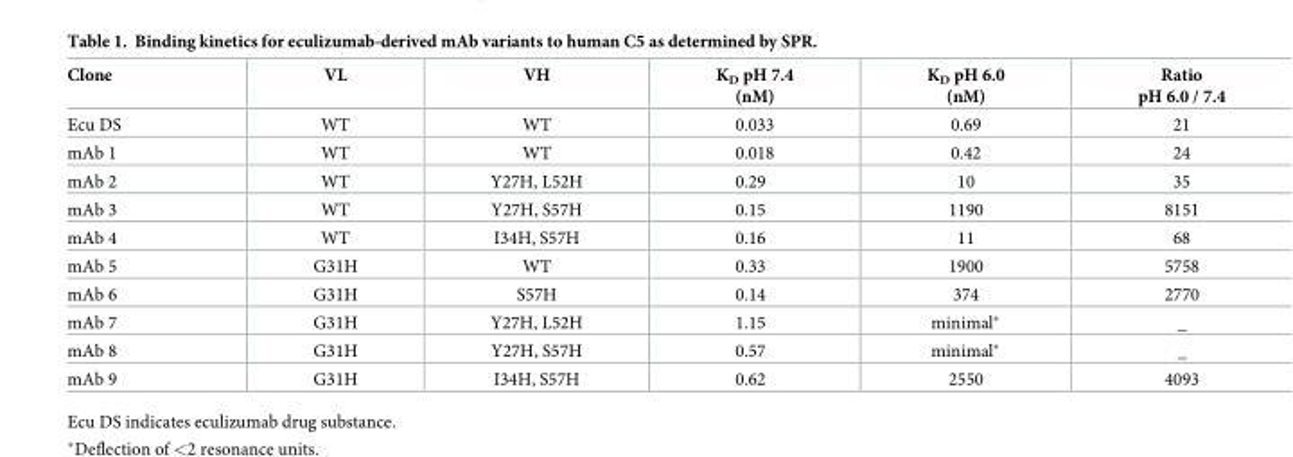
<table><thead><tr><td>Clone</td><td>VL</td><td>VH</td><td>K<sub>D</sub> pH 7.4 (nM)</td><td>K<sub>D</sub> pH 6.0 (nM)</td><td>Ratio pH 6.0 / 7.4</td></tr></thead><tbody><tr><td>Ecu DS</td><td>WT</td><td>WT</td><td>0.033</td><td>0.69</td><td>21</td></tr><tr><td>mAb 1</td><td>WT</td><td>WT</td><td>0.018</td><td>0.42</td><td>24</td></tr><tr><td>mAb 2</td><td>WT</td><td>Y27H, L52H</td><td>0.29</td><td>10</td><td>35</td></tr><tr><td>mAb 3</td><td>WT</td><td>Y27H, S57H</td><td>0.15</td><td>1190</td><td>8151</td></tr><tr><td>mAb 4</td><td>WT</td><td>I34H, S57H</td><td>0.16</td><td>11</td><td>68</td></tr><tr><td>mAb 5</td><td>G31H</td><td>WT</td><td>0.33</td><td>1900</td><td>5758</td></tr><tr><td>mAb 6</td><td>G31H</td><td>S57H</td><td>0.14</td><td>374</td><td>2770</td></tr><tr><td>mAb 7</td><td>G31H</td><td>Y27H, L52H</td><td>1.15</td><td>minimal*</td><td>_</td></tr><tr><td>mAb 8</td><td>G31H</td><td>Y27H, S57H</td><td>0.57</td><td>minimal*</td><td>_</td></tr><tr><td>mAb 9</td><td>G31H</td><td>I34H, S57H</td><td>0.62</td><td>2550</td><td>4093</td></tr></tbody></table>